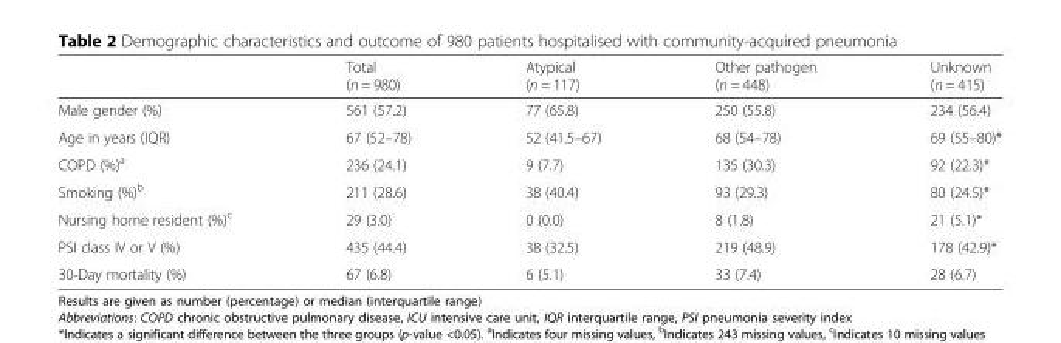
<table><thead><tr><td></td><td>Total (n = 980)</td><td>Atypical (n = 117)</td><td>Other pathogen (n = 448)</td><td>Unknown (n = 415)</td></tr></thead><tbody><tr><td>Male gender (%)</td><td>561 (57.2)</td><td>77 (65.8)</td><td>250 (55.8)</td><td>234 (56.4)</td></tr><tr><td>Age in years (IQR)</td><td>67 (52–78)</td><td>52 (41.5–67)</td><td>68 (54–78)</td><td>69 (55–80)*</td></tr><tr><td>COPD (%)<sup>a</sup></td><td>236 (24.1)</td><td>9 (7.7)</td><td>135 (30.3)</td><td>92 (22.3)*</td></tr><tr><td>Smoking (%)<sup>b</sup></td><td>211 (28.6)</td><td>38 (40.4)</td><td>93 (29.3)</td><td>80 (24.5)*</td></tr><tr><td>Nursing home resident (%)<sup>c</sup></td><td>29 (3.0)</td><td>0 (0.0)</td><td>8 (1.8)</td><td>21 (5.1)*</td></tr><tr><td>PSI class IV or V (%)</td><td>435 (44.4)</td><td>38 (32.5)</td><td>219 (48.9)</td><td>178 (42.9)*</td></tr><tr><td>30-Day mortality (%)</td><td>67 (6.8)</td><td>6 (5.1)</td><td>33 (7.4)</td><td>28 (6.7)</td></tr></tbody></table>